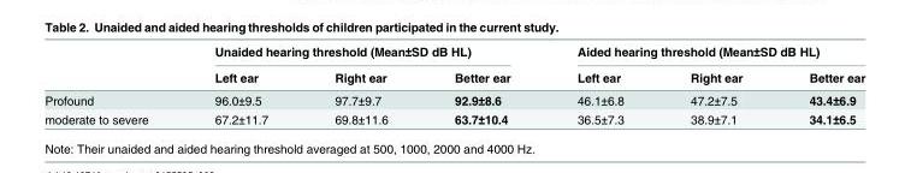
<table><thead><tr><td rowspan="2"></td><td colspan="3">Unaided hearing threshold (Mean±SD dB HL)</td><td colspan="3">Aided hearing threshold (Mean±SD dB HL)</td></tr><tr><td>Left ear</td><td>Right ear</td><td>Better ear</td><td>Left ear</td><td>Right ear</td><td>Better ear</td></tr></thead><tbody><tr><td>Profound</td><td>96.0±9.5</td><td>97.7±9.7</td><td>92.9±8.6</td><td>46.1±6.8</td><td>47.2±7.5</td><td>43.4±6.9</td></tr><tr><td>moderate to severe</td><td>67.2±11.7</td><td>69.8±11.6</td><td>63.7±10.4</td><td>36.5±7.3</td><td>38.9±7.1</td><td>34.1±6.5</td></tr></tbody></table>